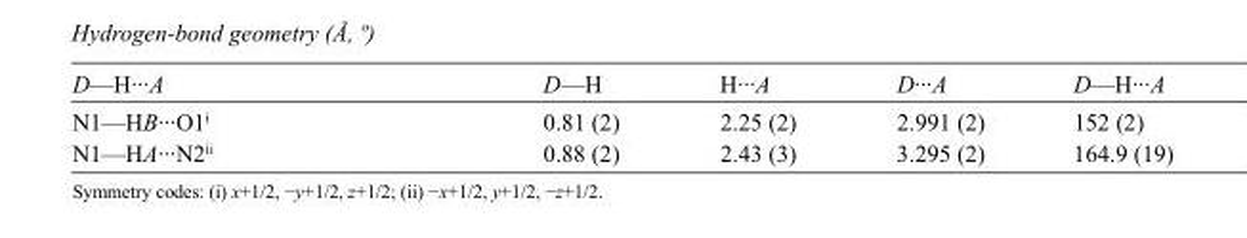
<table><tbody><tr><td>D—H···A</td><td>D—H</td><td>H···A</td><td>D···A</td><td>D—H···A</td></tr><tr><td>N1—HB···O1<sup>i</sup></td><td>0.81 (2)</td><td>2.25 (2)</td><td>2.991 (2)</td><td>152 (2)</td></tr><tr><td>N1—HA···N2<sup>ii</sup></td><td>0.88 (2)</td><td>2.43 (3)</td><td>3.295 (2)</td><td>164.9 (19)</td></tr></tbody></table>